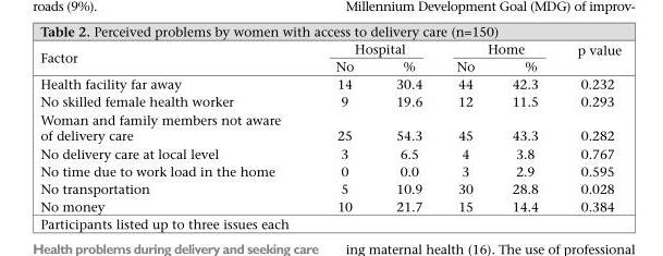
<table><thead><tr><td rowspan="2">Factor</td><td colspan="2">Hospital</td><td colspan="2">Home</td><td rowspan="2">p value</td></tr><tr><td>No</td><td>%</td><td>No</td><td>%</td></tr></thead><tbody><tr><td>Health facility far away</td><td>14</td><td>30.4</td><td>44</td><td>42.3</td><td>0.232</td></tr><tr><td>No skilled female health worker</td><td>9</td><td>19.6</td><td>12</td><td>11.5</td><td>0.293</td></tr><tr><td>Woman and family members not aware of delivery care</td><td>25</td><td>54.3</td><td>45</td><td>43.3</td><td>0.282</td></tr><tr><td>No delivery care at local level</td><td>3</td><td>6.5</td><td>4</td><td>3.8</td><td>0.767</td></tr><tr><td>No time due to work load in the home</td><td>0</td><td>0.0</td><td>3</td><td>2.9</td><td>0.595</td></tr><tr><td>No transportation</td><td>5</td><td>10.9</td><td>30</td><td>28.8</td><td>0.028</td></tr><tr><td>No money</td><td>10</td><td>21.7</td><td>15</td><td>14.4</td><td>0.384</td></tr></tbody></table>